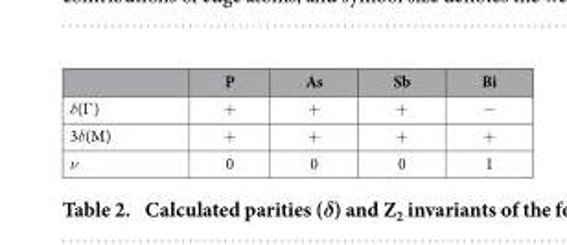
<table><thead><tr><td></td><td>P</td><td>As</td><td>Sb</td><td>Bi</td></tr></thead><tbody><tr><td>δ(Γ )</td><td>+</td><td>+</td><td>+</td><td>−</td></tr><tr><td>3δ(M)</td><td>+</td><td>+</td><td>+</td><td>+</td></tr><tr><td>ν</td><td>0</td><td>0</td><td>0</td><td>1</td></tr></tbody></table>